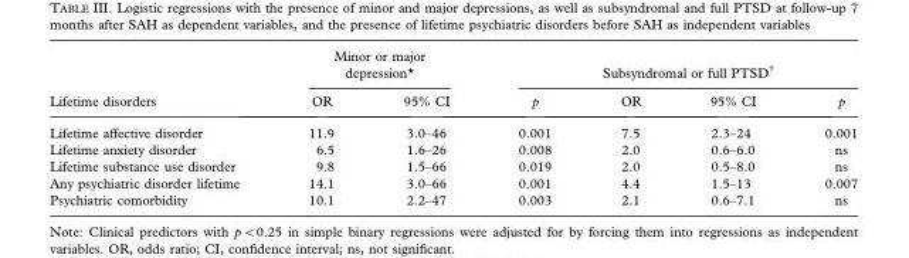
<table><thead><tr><td rowspan="2">Lifetime disorders</td><td colspan="2">Minor or major depression*</td><td colspan="4">Subsyndromal or full PTSD†</td></tr><tr><td>OR</td><td>95% CI</td><td>p</td><td>OR</td><td>95% CI</td><td>p</td></tr></thead><tbody><tr><td>Lifetime affective disorder</td><td>11.9</td><td>3.0–46</td><td>0.001</td><td>7.5</td><td>2.3–24</td><td>0.001</td></tr><tr><td>Lifetime anxiety disorder</td><td>6.5</td><td>1.6–26</td><td>0.008</td><td>2.0</td><td>0.6–6.0</td><td>ns</td></tr><tr><td>Lifetime substance use disorder</td><td>9.8</td><td>1.5–66</td><td>0.019</td><td>2.0</td><td>0.5–8.0</td><td>ns</td></tr><tr><td>Any psychiatric disorder lifetime</td><td>14.1</td><td>3.0–66</td><td>0.001</td><td>4.4</td><td>1.5–13</td><td>0.007</td></tr><tr><td>Psychiatric comorbidity</td><td>10.1</td><td>2.2–47</td><td>0.003</td><td>2.1</td><td>0.6–7.1</td><td>ns</td></tr></tbody></table>